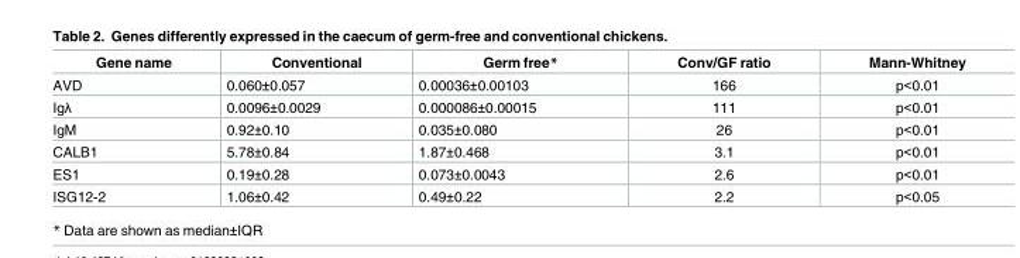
<table><thead><tr><td>Gene name</td><td>Conventional</td><td>Germ free*</td><td>Conv/GF ratio</td><td>Mann-Whitney</td></tr></thead><tbody><tr><td>AVD</td><td>0.060±0.057</td><td>0.00036±0.00103</td><td>166</td><td>p&lt;0.01</td></tr><tr><td>Igλ</td><td>0.0096±0.0029</td><td>0.000086±0.00015</td><td>111</td><td>p&lt;0.01</td></tr><tr><td>IgM</td><td>0.92±0.10</td><td>0.035±0.080</td><td>26</td><td>p&lt;0.01</td></tr><tr><td>CALB1</td><td>5.78±0.84</td><td>1.87±0.468</td><td>3.1</td><td>p&lt;0.01</td></tr><tr><td>ES1</td><td>0.19±0.28</td><td>0.073±0.0043</td><td>2.6</td><td>p&lt;0.01</td></tr><tr><td>ISG12-2</td><td>1.06±0.42</td><td>0.49±0.22</td><td>2.2</td><td>p&lt;0.05</td></tr></tbody></table>